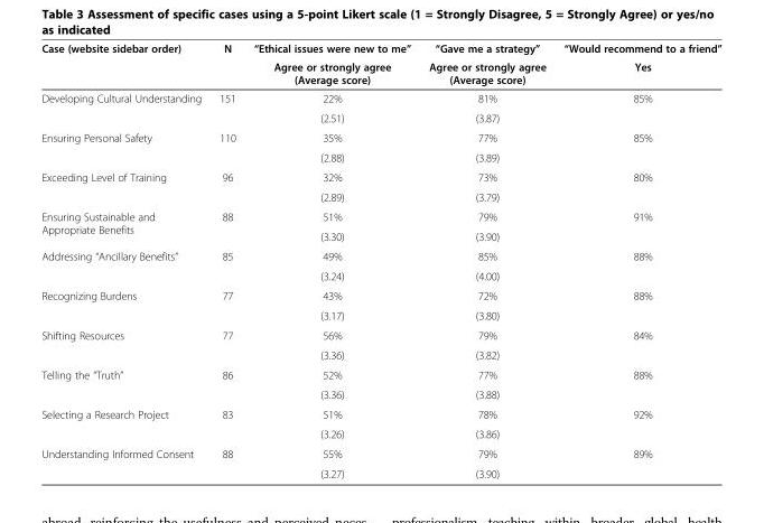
<table><thead><tr><td rowspan="2">Case (website sidebar order)</td><td rowspan="2">N</td><td rowspan="2">“Ethical issues were new to me” Agree or strongly agree (Average score)</td><td rowspan="2">“Gave me a strategy” Agree or strongly agree (Average score)</td><td rowspan="2">“Would recommend to a friend” Yes</td></tr><tr></tr></thead><tbody><tr><td rowspan="2">Developing Cultural Understanding</td><td rowspan="2">151</td><td>22%</td><td>81%</td><td rowspan="2">85%</td></tr><tr><td>(2.51)</td><td>(3.87)</td></tr><tr><td rowspan="2">Ensuring Personal Safety</td><td rowspan="2">110</td><td>35%</td><td>77%</td><td rowspan="2">85%</td></tr><tr><td>(2.88)</td><td>(3.89)</td></tr><tr><td rowspan="2">Exceeding Level of Training</td><td rowspan="2">96</td><td>32%</td><td>73%</td><td rowspan="2">80%</td></tr><tr><td>(2.89)</td><td>(3.79)</td></tr><tr><td rowspan="2">Ensuring Sustainable and Appropriate Benefits</td><td rowspan="2">88</td><td>51%</td><td>79%</td><td rowspan="2">91%</td></tr><tr><td>(3.30)</td><td>(3.90)</td></tr><tr><td rowspan="2">Addressing “Ancillary Benefits”</td><td rowspan="2">85</td><td>49%</td><td>85%</td><td rowspan="2">88%</td></tr><tr><td>(3.24)</td><td>(4.00)</td></tr><tr><td rowspan="2">Recognizing Burdens</td><td rowspan="2">77</td><td>43%</td><td>72%</td><td rowspan="2">88%</td></tr><tr><td>(3.17)</td><td>(3.80)</td></tr><tr><td rowspan="2">Shifting Resources</td><td rowspan="2">77</td><td>56%</td><td>79%</td><td rowspan="2">84%</td></tr><tr><td>(3.36)</td><td>(3.82)</td></tr><tr><td rowspan="2">Telling the “Truth”</td><td rowspan="2">86</td><td>52%</td><td>77%</td><td rowspan="2">88%</td></tr><tr><td>(3.36)</td><td>(3.88)</td></tr><tr><td rowspan="2">Selecting a Research Project</td><td rowspan="2">83</td><td>51%</td><td>78%</td><td rowspan="2">92%</td></tr><tr><td>(3.26)</td><td>(3.86)</td></tr><tr><td rowspan="2">Understanding Informed Consent</td><td>88</td><td>55%</td><td>79%</td><td rowspan="2">89%</td></tr><tr><td></td><td>(3.27)</td><td>(3.90)</td></tr></tbody></table>